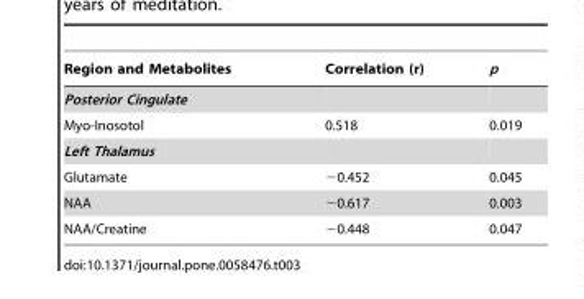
<table><thead><tr><td>Region and Metabolites</td><td>Correlation (r)</td><td>p</td></tr></thead><tbody><tr><td colspan="3">Posterior Cingulate</td></tr><tr><td>Myo-Inosotol</td><td>0.518</td><td>0.019</td></tr><tr><td colspan="3">Left Thalamus</td></tr><tr><td>Glutamate</td><td>−0.452</td><td>0.045</td></tr><tr><td>NAA</td><td>−0.617</td><td>0.003</td></tr><tr><td>NAA/Creatine</td><td>−0.448</td><td>0.047</td></tr></tbody></table>